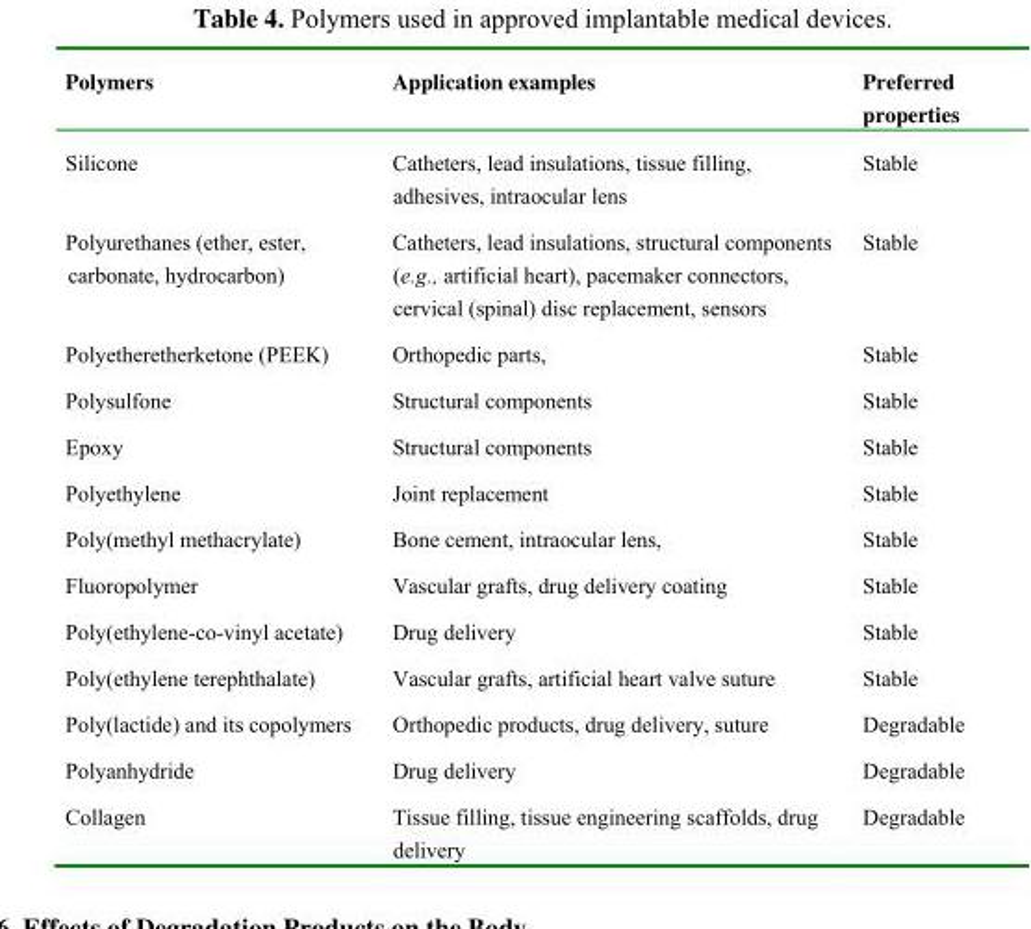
<table><thead><tr><td>Polymers</td><td>Application examples</td><td>Preferred properties</td></tr></thead><tbody><tr><td>Silicone</td><td>Catheters, lead insulations, tissue filling, adhesives, intraocular lens</td><td>Stable</td></tr><tr><td>Polyurethanes (ether, ester, carbonate, hydrocarbon)</td><td>Catheters, lead insulations, structural components (e.g., artificial heart), pacemaker connectors, cervical (spinal) disc replacement, sensors</td><td>Stable</td></tr><tr><td>Polyetheretherketone (PEEK)</td><td>Orthopedic parts,</td><td>Stable</td></tr><tr><td>Polysulfone</td><td>Structural components</td><td>Stable</td></tr><tr><td>Epoxy</td><td>Structural components</td><td>Stable</td></tr><tr><td>Polyethylene</td><td>Joint replacement</td><td>Stable</td></tr><tr><td>Poly(methyl methacrylate)</td><td>Bone cement, intraocular lens,</td><td>Stable</td></tr><tr><td>Fluoropolymer</td><td>Vascular grafts, drug delivery coating</td><td>Stable</td></tr><tr><td>Poly(ethylene-co-vinyl acetate)</td><td>Drug delivery</td><td>Stable</td></tr><tr><td>Poly(ethylene terephthalate)</td><td>Vascular grafts, artificial heart valve suture</td><td>Stable</td></tr><tr><td>Poly(lactide) and its copolymers</td><td>Orthopedic products, drug delivery, suture</td><td>Degradable</td></tr><tr><td>Polyanhydride</td><td>Drug delivery</td><td>Degradable</td></tr><tr><td>Collagen</td><td>Tissue filling, tissue engineering scaffolds, drug delivery</td><td>Degradable</td></tr></tbody></table>